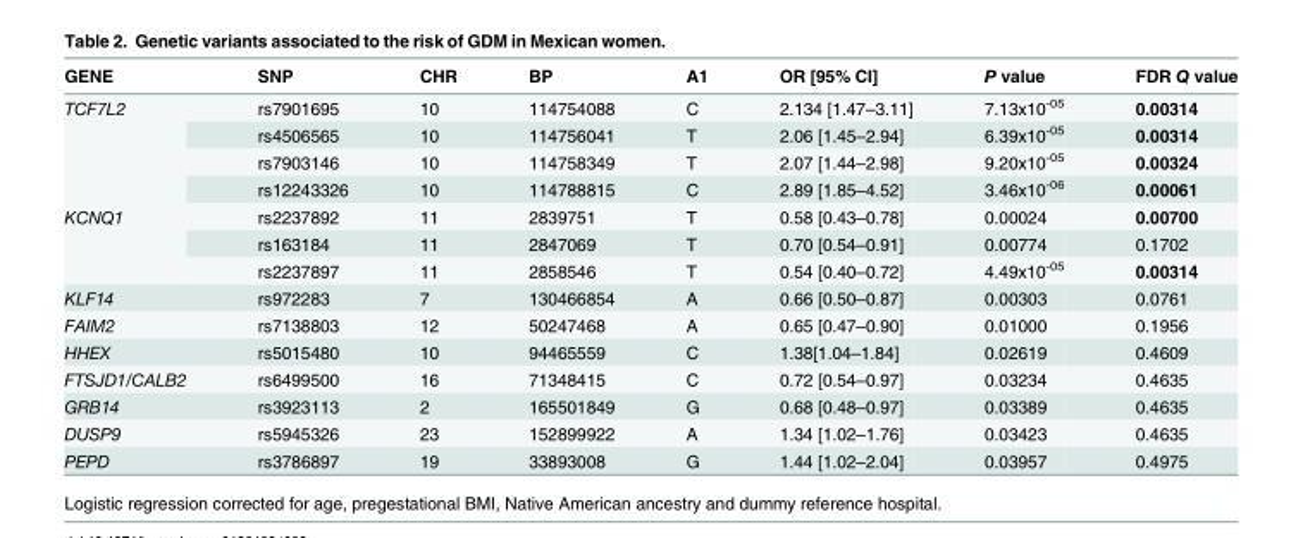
<table><thead><tr><td>GENE</td><td>SNP</td><td>CHR</td><td>BP</td><td>A1</td><td>OR [95% CI]</td><td>P value</td><td>FDR Q value</td></tr></thead><tbody><tr><td rowspan="4">TCF7L2</td><td>rs7901695</td><td>10</td><td>114754088</td><td>C</td><td>2.134 [1.47–3.11]</td><td>7.13x10<sup>-05</sup></td><td>0.00314</td></tr><tr><td>rs4506565</td><td>10</td><td>114756041</td><td>T</td><td>2.06 [1.45–2.94]</td><td>6.39x10<sup>-05</sup></td><td>0.00314</td></tr><tr><td>rs7903146</td><td>10</td><td>114758349</td><td>T</td><td>2.07 [1.44–2.98]</td><td>9.20x10<sup>-05</sup></td><td>0.00324</td></tr><tr><td>rs12243326</td><td>10</td><td>114788815</td><td>C</td><td>2.89 [1.85–4.52]</td><td>3.46x10<sup>-06</sup></td><td>0.00061</td></tr><tr><td rowspan="3">KCNQ1</td><td>rs2237892</td><td>11</td><td>2839751</td><td>T</td><td>0.58 [0.43–0.78]</td><td>0.00024</td><td>0.00700</td></tr><tr><td>rs163184</td><td>11</td><td>2847069</td><td>T</td><td>0.70 [0.54–0.91]</td><td>0.00774</td><td>0.1702</td></tr><tr><td>rs2237897</td><td>11</td><td>2858546</td><td>T</td><td>0.54 [0.40–0.72]</td><td>4.49x10<sup>-05</sup></td><td>0.00314</td></tr><tr><td>KLF14</td><td>rs972283</td><td>7</td><td>130466854</td><td>A</td><td>0.66 [0.50–0.87]</td><td>0.00303</td><td>0.0761</td></tr><tr><td>FAIM2</td><td>rs7138803</td><td>12</td><td>50247468</td><td>A</td><td>0.65 [0.47–0.90]</td><td>0.01000</td><td>0.1956</td></tr><tr><td>HHEX</td><td>rs5015480</td><td>10</td><td>94465559</td><td>C</td><td>1.38[1.04–1.84]</td><td>0.02619</td><td>0.4609</td></tr><tr><td>FTSJD1/CALB2</td><td>rs6499500</td><td>16</td><td>71348415</td><td>C</td><td>0.72 [0.54–0.97]</td><td>0.03234</td><td>0.4635</td></tr><tr><td>GRB14</td><td>rs3923113</td><td>2</td><td>165501849</td><td>G</td><td>0.68 [0.48–0.97]</td><td>0.03389</td><td>0.4635</td></tr><tr><td>DUSP9</td><td>rs5945326</td><td>23</td><td>152899922</td><td>A</td><td>1.34 [1.02–1.76]</td><td>0.03423</td><td>0.4635</td></tr><tr><td>PEPD</td><td>rs3786897</td><td>19</td><td>33893008</td><td>G</td><td>1.44 [1.02–2.04]</td><td>0.03957</td><td>0.4975</td></tr></tbody></table>